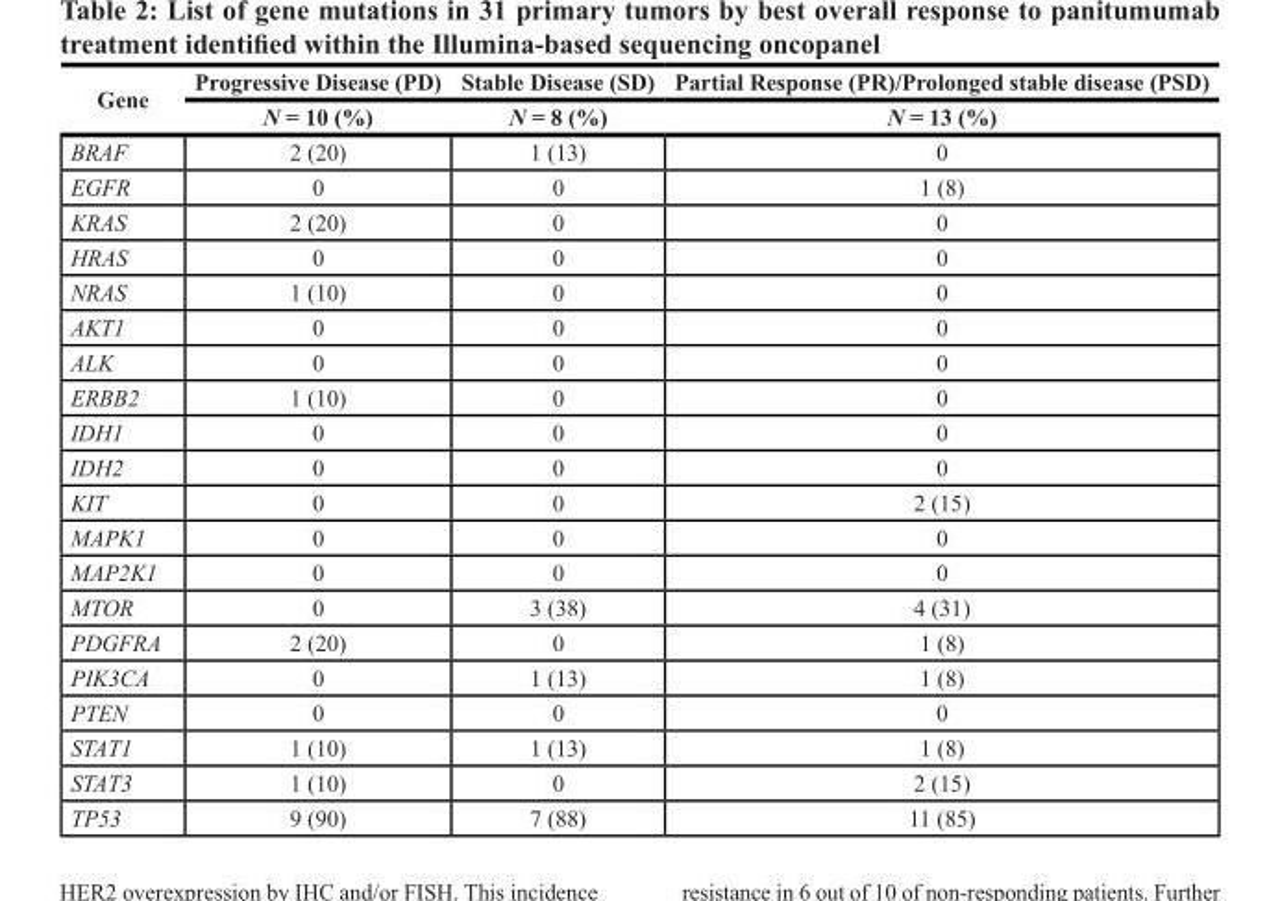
<table><thead><tr><td rowspan="2">Gene</td><td rowspan="2">Progressive Disease (PD) N = 10 (%)</td><td rowspan="2">Stable Disease (SD) N = 8 (%)</td><td rowspan="2">Partial Response (PR)/Prolonged stable disease (PSD) N = 13 (%)</td></tr><tr></tr></thead><tbody><tr><td>BRAF</td><td>2 (20)</td><td>1 (13)</td><td>0</td></tr><tr><td>EGFR</td><td>0</td><td>0</td><td>1 (8)</td></tr><tr><td>KRAS</td><td>2 (20)</td><td>0</td><td>0</td></tr><tr><td>HRAS</td><td>0</td><td>0</td><td>0</td></tr><tr><td>NRAS</td><td>1 (10)</td><td>0</td><td>0</td></tr><tr><td>AKT1</td><td>0</td><td>0</td><td>0</td></tr><tr><td>ALK</td><td>0</td><td>0</td><td>0</td></tr><tr><td>ERBB2</td><td>1 (10)</td><td>0</td><td>0</td></tr><tr><td>IDH1</td><td>0</td><td>0</td><td>0</td></tr><tr><td>IDH2</td><td>0</td><td>0</td><td>0</td></tr><tr><td>KIT</td><td>0</td><td>0</td><td>2 (15)</td></tr><tr><td>MAPK1</td><td>0</td><td>0</td><td>0</td></tr><tr><td>MAP2K1</td><td>0</td><td>0</td><td>0</td></tr><tr><td>MTOR</td><td>0</td><td>3 (38)</td><td>4 (31)</td></tr><tr><td>PDGFRA</td><td>2 (20)</td><td>0</td><td>1 (8)</td></tr><tr><td>PIK3CA</td><td>0</td><td>1 (13)</td><td>1 (8)</td></tr><tr><td>PTEN</td><td>0</td><td>0</td><td>0</td></tr><tr><td>STAT1</td><td>1 (10)</td><td>1 (13)</td><td>1 (8)</td></tr><tr><td>STAT3</td><td>1 (10)</td><td>0</td><td>2 (15)</td></tr><tr><td>TP53</td><td>9 (90)</td><td>7 (88)</td><td>11 (85)</td></tr></tbody></table>